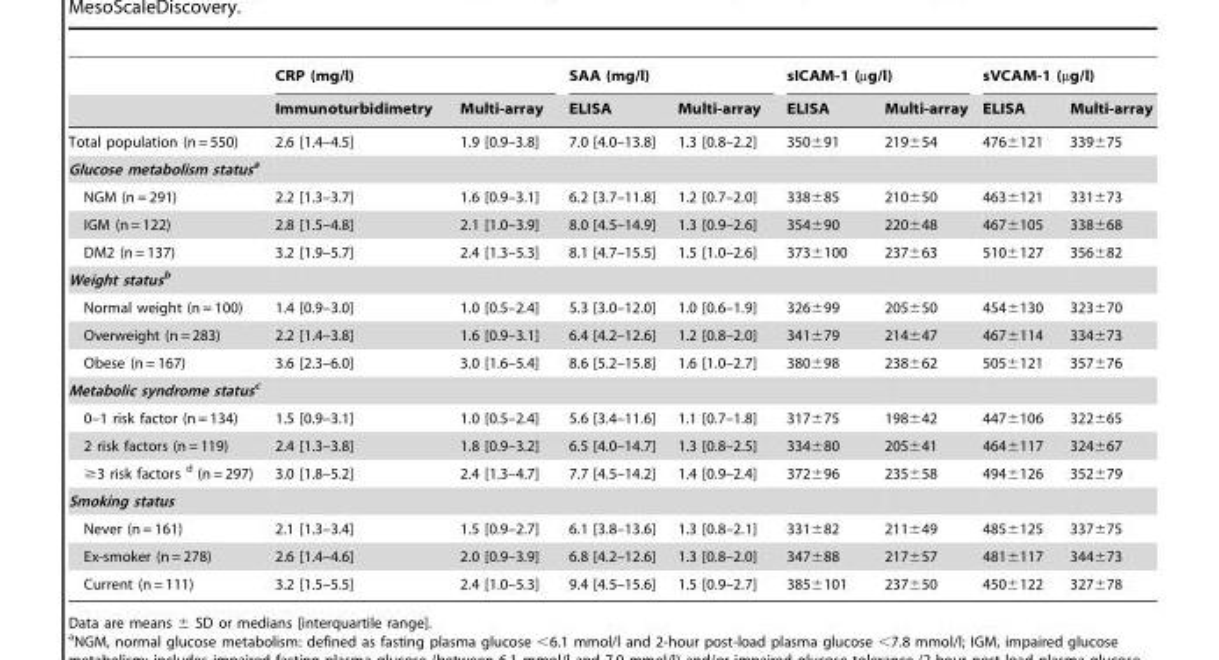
<table><thead><tr><td rowspan="2"></td><td colspan="2">CRP (mg/l)</td><td colspan="2">SAA (mg/l)</td><td colspan="2">sICAM-1 (µg/l)</td><td colspan="2">sVCAM-1 (µg/l)</td></tr><tr><td>Immunoturbidimetry</td><td>Multi-array</td><td>ELISA</td><td>Multi-array</td><td>ELISA</td><td>Multi-array</td><td>ELISA</td><td>Multi-array</td></tr></thead><tbody><tr><td>Total population (n = 550)</td><td>2.6 [1.4–4.5]</td><td>1.9 [0.9–3.8]</td><td>7.0 [4.0–13.8]</td><td>1.3 [0.8–2.2]</td><td>350±91</td><td>219±54</td><td>476±121</td><td>339±75</td></tr><tr><td colspan="9">Glucose metabolism statusa</td></tr><tr><td>NGM (n = 291)</td><td>2.2 [1.3–3.7]</td><td>1.6 [0.9–3.1]</td><td>6.2 [3.7–11.8]</td><td>1.2 [0.7–2.0]</td><td>338±85</td><td>210±50</td><td>463±121</td><td>331±73</td></tr><tr><td>IGM (n = 122)</td><td>2.8 [1.5–4.8]</td><td>2.1 [1.0–3.9]</td><td>8.0 [4.5–14.9]</td><td>1.3 [0.9–2.6]</td><td>354±90</td><td>220±48</td><td>467±105</td><td>338±68</td></tr><tr><td>DM2 (n = 137)</td><td>3.2 [1.9–5.7]</td><td>2.4 [1.3–5.3]</td><td>8.1 [4.7–15.5]</td><td>1.5 [1.0–2.6]</td><td>373±100</td><td>237±63</td><td>510±127</td><td>356±82</td></tr><tr><td colspan="9">Weight statusb</td></tr><tr><td>Normal weight (n = 100)</td><td>1.4 [0.9–3.0]</td><td>1.0 [0.5–2.4]</td><td>5.3 [3.0–12.0]</td><td>1.0 [0.6–1.9]</td><td>326±99</td><td>205±50</td><td>454±130</td><td>323±70</td></tr><tr><td>Overweight (n = 283)</td><td>2.2 [1.4–3.8]</td><td>1.6 [0.9–3.1]</td><td>6.4 [4.2–12.6]</td><td>1.2 [0.8–2.0]</td><td>341±79</td><td>214±47</td><td>467±114</td><td>334±73</td></tr><tr><td>Obese (n = 167)</td><td>3.6 [2.3–6.0]</td><td>3.0 [1.6–5.4]</td><td>8.6 [5.2–15.8]</td><td>1.6 [1.0–2.7]</td><td>380±98</td><td>238±62</td><td>505±121</td><td>357±76</td></tr><tr><td colspan="9">Metabolic syndrome statusc</td></tr><tr><td>0–1 risk factor (n = 134)</td><td>1.5 [0.9–3.1]</td><td>1.0 [0.5–2.4]</td><td>5.6 [3.4–11.6]</td><td>1.1 [0.7–1.8]</td><td>317±75</td><td>198±42</td><td>447±106</td><td>322±65</td></tr><tr><td>2 risk factors (n = 119)</td><td>2.4 [1.3–3.8]</td><td>1.8 [0.9–3.2]</td><td>6.5 [4.0–14.7]</td><td>1.3 [0.8–2.5]</td><td>334±80</td><td>205±41</td><td>464±117</td><td>324±67</td></tr><tr><td>≥3 risk factors d (n = 297)</td><td>3.0 [1.8–5.2]</td><td>2.4 [1.3–4.7]</td><td>7.7 [4.5–14.2]</td><td>1.4 [0.9–2.4]</td><td>372±96</td><td>235±58</td><td>494±126</td><td>352±79</td></tr><tr><td colspan="9">Smoking status</td></tr><tr><td>Never (n = 161)</td><td>2.1 [1.3–3.4]</td><td>1.5 [0.9–2.7]</td><td>6.1 [3.8–13.6]</td><td>1.3 [0.8–2.1]</td><td>331±82</td><td>211±49</td><td>485±125</td><td>337±75</td></tr><tr><td>Ex-smoker (n = 278)</td><td>2.6 [1.4–4.6]</td><td>2.0 [0.9–3.9]</td><td>6.8 [4.2–12.6]</td><td>1.3 [0.8–2.0]</td><td>347±88</td><td>217±57</td><td>481±117</td><td>344±73</td></tr><tr><td>Current (n = 111)</td><td>3.2 [1.5–5.5]</td><td>2.4 [1.0–5.3]</td><td>9.4 [4.5–15.6]</td><td>1.5 [0.9–2.7]</td><td>385±101</td><td>237±50</td><td>450±122</td><td>327±78</td></tr></tbody></table>